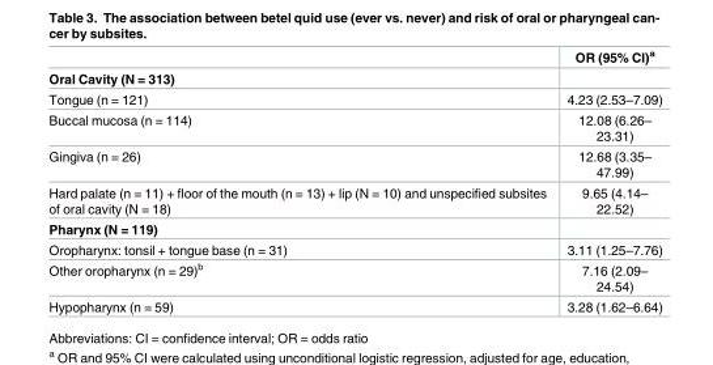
<table><thead><tr><td></td><td>OR (95% CI)<sup>a</sup></td></tr></thead><tbody><tr><td colspan="2">Oral Cavity (N = 313)</td></tr><tr><td>Tongue (n = 121)</td><td>4.23 (2.53–7.09)</td></tr><tr><td>Buccal mucosa (n = 114)</td><td>12.08 (6.26– 23.31)</td></tr><tr><td>Gingiva (n = 26)</td><td>12.68 (3.35– 47.99)</td></tr><tr><td>Hard palate (n = 11) + floor of the mouth (n = 13) + lip (N = 10) and unspecified subsites of oral cavity (N = 18)</td><td>9.65 (4.14– 22.52)</td></tr><tr><td colspan="2">Pharynx (N = 119)</td></tr><tr><td>Oropharynx: tonsil + tongue base (n = 31)</td><td>3.11 (1.25–7.76)</td></tr><tr><td>Other oropharynx (n = 29)<sup>b</sup></td><td>7.16 (2.09– 24.54)</td></tr><tr><td>Hypopharynx (n = 59)</td><td>3.28 (1.62–6.64)</td></tr></tbody></table>